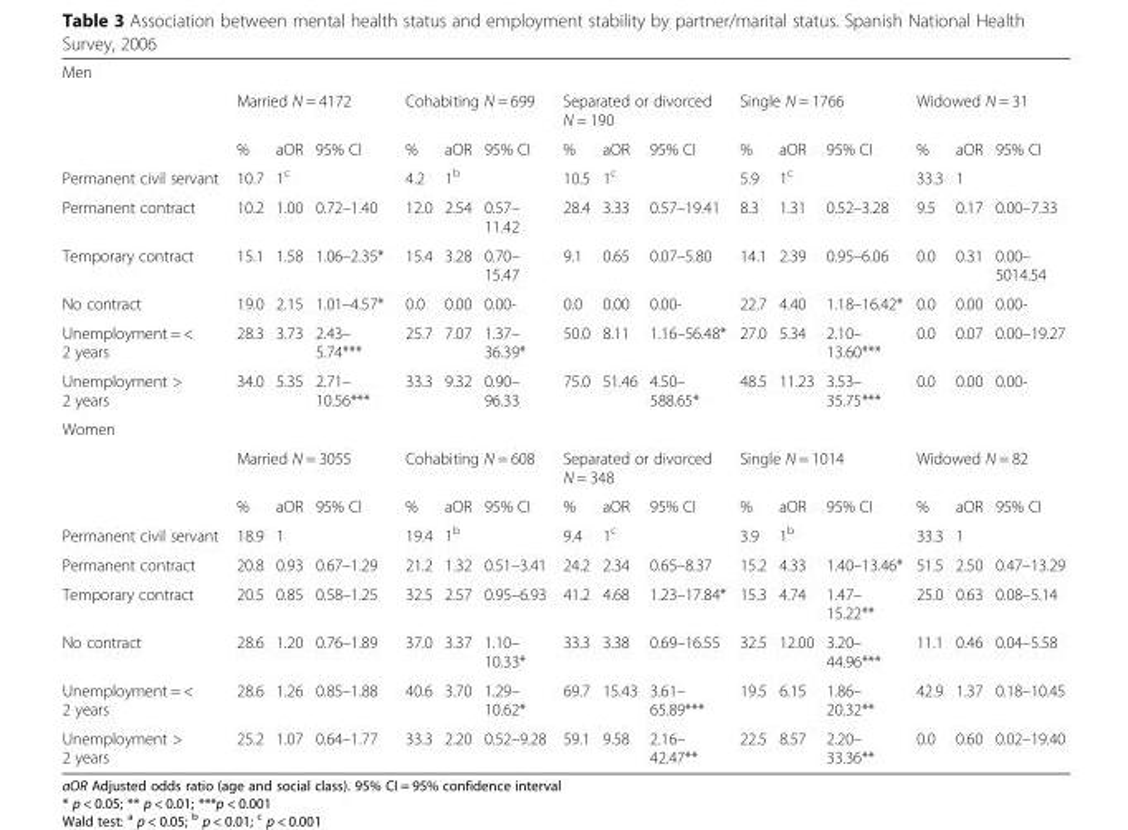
<table><tbody><tr><td colspan="16">Men</td></tr><tr><td></td><td colspan="3">Married N = 4172</td><td colspan="3">Cohabiting N = 699</td><td colspan="3">Separated or divorced N = 190</td><td colspan="3">Single N = 1766</td><td colspan="3">Widowed N = 31</td></tr><tr><td></td><td>%</td><td>aOR</td><td>95% CI</td><td>%</td><td>aOR</td><td>95% CI</td><td>%</td><td>aOR</td><td>95% CI</td><td>%</td><td>aOR</td><td>95% CI</td><td>%</td><td>aOR</td><td>95% CI</td></tr><tr><td>Permanent civil servant</td><td>10.7</td><td>1<sup>c</sup></td><td></td><td>4.2</td><td>1<sup>b</sup></td><td></td><td>10.5</td><td>1<sup>c</sup></td><td></td><td>5.9</td><td>1<sup>c</sup></td><td></td><td>33.3</td><td>1</td><td></td></tr><tr><td>Permanent contract</td><td>10.2</td><td>1.00</td><td>0.72–1.40</td><td>12.0</td><td>2.54</td><td>0.57– 11.42</td><td>28.4</td><td>3.33</td><td>0.57–19.41</td><td>8.3</td><td>1.31</td><td>0.52–3.28</td><td>9.5</td><td>0.17</td><td>0.00–7.33</td></tr><tr><td>Temporary contract</td><td>15.1</td><td>1.58</td><td>1.06–2.35*</td><td>15.4</td><td>3.28</td><td>0.70– 15.47</td><td>9.1</td><td>0.65</td><td>0.07–5.80</td><td>14.1</td><td>2.39</td><td>0.95–6.06</td><td>0.0</td><td>0.31</td><td>0.00– 5014.54</td></tr><tr><td>No contract</td><td>19.0</td><td>2.15</td><td>1.01–4.57*</td><td>0.0</td><td>0.00</td><td>0.00-</td><td>0.0</td><td>0.00</td><td>0.00-</td><td>22.7</td><td>4.40</td><td>1.18–16.42*</td><td>0.0</td><td>0.00</td><td>0.00-</td></tr><tr><td>Unemployment = &lt; 2 years</td><td>28.3</td><td>3.73</td><td>2.43– 5.74***</td><td>25.7</td><td>7.07</td><td>1.37– 36.39*</td><td>50.0</td><td>8.11</td><td>1.16–56.48*</td><td>27.0</td><td>5.34</td><td>2.10– 13.60***</td><td>0.0</td><td>0.07</td><td>0.00–19.27</td></tr><tr><td>Unemployment &gt; 2 years</td><td>34.0</td><td>5.35</td><td>2.71– 10.56***</td><td>33.3</td><td>9.32</td><td>0.90– 96.33</td><td>75.0</td><td>51.46</td><td>4.50– 588.65*</td><td>48.5</td><td>11.23</td><td>3.53– 35.75***</td><td>0.0</td><td>0.00</td><td>0.00-</td></tr><tr><td colspan="16">Women</td></tr><tr><td></td><td colspan="3">Married N = 3055</td><td colspan="3">Cohabiting N = 608</td><td colspan="3">Separated or divorced N = 348</td><td colspan="3">Single N = 1014</td><td colspan="3">Widowed N = 82</td></tr><tr><td></td><td>%</td><td>aOR</td><td>95% CI</td><td>%</td><td>aOR</td><td>95% CI</td><td>%</td><td>aOR</td><td>95% CI</td><td>%</td><td>aOR</td><td>95% CI</td><td>%</td><td>aOR</td><td>95% CI</td></tr><tr><td>Permanent civil servant</td><td>18.9</td><td>1</td><td></td><td>19.4</td><td>1<sup>b</sup></td><td></td><td>9.4</td><td>1<sup>c</sup></td><td></td><td>3.9</td><td>1<sup>b</sup></td><td></td><td>33.3</td><td>1</td><td></td></tr><tr><td>Permanent contract</td><td>20.8</td><td>0.93</td><td>0.67–1.29</td><td>21.2</td><td>1.32</td><td>0.51–3.41</td><td>24.2</td><td>2.34</td><td>0.65–8.37</td><td>15.2</td><td>4.33</td><td>1.40–13.46*</td><td>51.5</td><td>2.50</td><td>0.47–13.29</td></tr><tr><td>Temporary contract</td><td>20.5</td><td>0.85</td><td>0.58–1.25</td><td>32.5</td><td>2.57</td><td>0.95–6.93</td><td>41.2</td><td>4.68</td><td>1.23–17.84*</td><td>15.3</td><td>4.74</td><td>1.47– 15.22**</td><td>25.0</td><td>0.63</td><td>0.08–5.14</td></tr><tr><td>No contract</td><td>28.6</td><td>1.20</td><td>0.76–1.89</td><td>37.0</td><td>3.37</td><td>1.10– 10.33*</td><td>33.3</td><td>3.38</td><td>0.69–16.55</td><td>32.5</td><td>12.00</td><td>3.20– 44.96***</td><td>11.1</td><td>0.46</td><td>0.04–5.58</td></tr><tr><td>Unemployment = &lt; 2 years</td><td>28.6</td><td>1.26</td><td>0.85–1.88</td><td>40.6</td><td>3.70</td><td>1.29– 10.62*</td><td>69.7</td><td>15.43</td><td>3.61– 65.89***</td><td>19.5</td><td>6.15</td><td>1.86– 20.32**</td><td>42.9</td><td>1.37</td><td>0.18–10.45</td></tr><tr><td>Unemployment &gt; 2 years</td><td>25.2</td><td>1.07</td><td>0.64–1.77</td><td>33.3</td><td>2.20</td><td>0.52–9.28</td><td>59.1</td><td>9.58</td><td>2.16– 42.47**</td><td>22.5</td><td>8.57</td><td>2.20– 33.36**</td><td>0.0</td><td>0.60</td><td>0.02–19.40</td></tr></tbody></table>